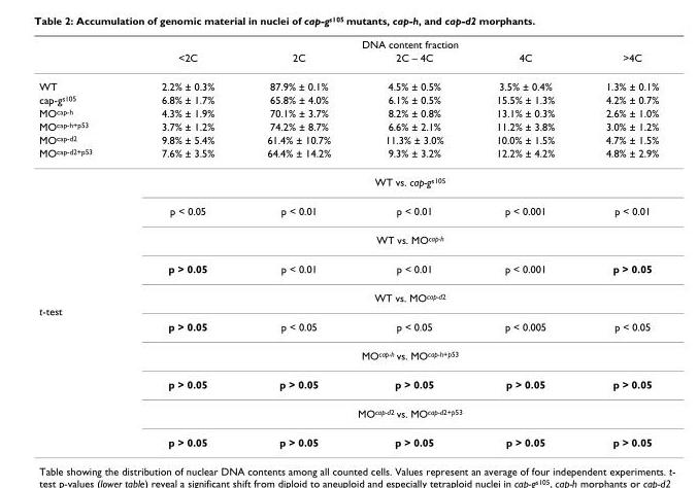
<table><thead><tr><td rowspan="2"></td><td colspan="5">DNA content fraction</td></tr><tr><td>&lt;2C</td><td>2C</td><td>2C – 4C</td><td>4C</td><td>&gt;4C</td></tr></thead><tbody><tr><td>WT</td><td>2.2% ± 0.3%</td><td>87.9% ± 0.1%</td><td>4.5% ± 0.5%</td><td>3.5% ± 0.4%</td><td>1.3% ± 0.1%</td></tr><tr><td>cap-g<sup>s105</sup></td><td>6.8% ± 1.7%</td><td>65.8% ± 4.0%</td><td>6.1% ± 0.5%</td><td>15.5% ± 1.3%</td><td>4.2% ± 0.7%</td></tr><tr><td>MO<sup>cap-h</sup></td><td>4.3% ± 1.9%</td><td>70.1% ± 3.7%</td><td>8.2% ± 0.8%</td><td>13.1% ± 0.3%</td><td>2.6% ± 1.0%</td></tr><tr><td>MO<sup>cap-h+p53</sup></td><td>3.7% ± 1.2%</td><td>74.2% ± 8.7%</td><td>6.6% ± 2.1%</td><td>11.2% ± 3.8%</td><td>3.0% ± 1.2%</td></tr><tr><td>MO<sup>cap-d2</sup></td><td>9.8% ± 5.4%</td><td>61.4% ± 10.7%</td><td>11.3% ± 3.0%</td><td>10.0% ± 1.5%</td><td>4.7% ± 1.5%</td></tr><tr><td rowspan="6">MO<sup>cap-d2+p53</sup></td><td>7.6% ± 3.5%</td><td>64.4% ± 14.2%</td><td>9.3% ± 3.2%</td><td>12.2% ± 4.2%</td><td>4.8% ± 2.9%</td></tr><tr><td colspan="5">WT vs. cap-g<sup>s105</sup></td></tr><tr><td>p &lt; 0.05</td><td>p &lt; 0.01</td><td>p &lt; 0.01</td><td>p &lt; 0.001</td><td>p &lt; 0.01</td></tr><tr><td colspan="5">WT vs. MO<sup>cap-h</sup></td></tr><tr><td>p &gt; 0.05</td><td>p &lt; 0.01</td><td>p &lt; 0.01</td><td>p &lt; 0.001</td><td>p &gt; 0.05</td></tr><tr><td colspan="5">WT vs. MO<sup>cap-d2</sup></td></tr><tr><td colspan="6">t-test</td></tr><tr><td></td><td>p &gt; 0.05</td><td>p &lt; 0.05</td><td>p &lt; 0.05</td><td>p &lt; 0.005</td><td>p &lt; 0.05</td></tr><tr><td></td><td colspan="5">MO<sup>cap-h</sup> vs. MO<sup>cap-h+p53</sup></td></tr><tr><td></td><td>p &gt; 0.05</td><td>p &gt; 0.05</td><td>p &gt; 0.05</td><td>p &gt; 0.05</td><td>p &gt; 0.05</td></tr><tr><td></td><td colspan="5">MO<sup>cap-d2</sup> vs. MO<sup>cap-d2+p53</sup></td></tr><tr><td></td><td>p &gt; 0.05</td><td>p &gt; 0.05</td><td>p &gt; 0.05</td><td>p &gt; 0.05</td><td>p &gt; 0.05</td></tr></tbody></table>